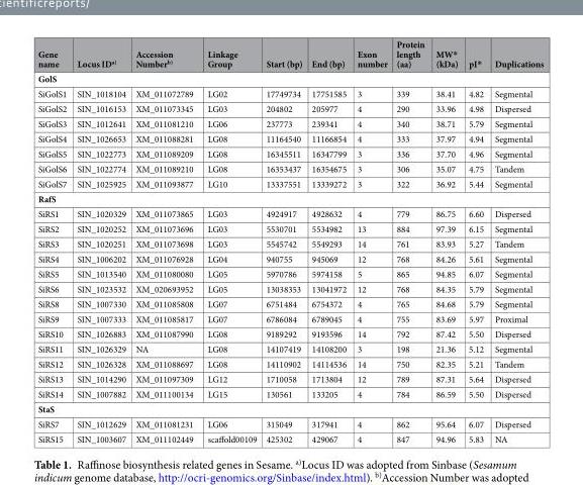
<table><thead><tr><td>Gene name</td><td>Locus ID<sup>a)</sup></td><td>Accession Number<sup>b)</sup></td><td>Linkage Group</td><td>Start (bp)</td><td>End (bp)</td><td>Exon number</td><td>Protein length (aa)</td><td>MW* (kDa)</td><td>pI*</td><td>Duplications</td></tr></thead><tbody><tr><td colspan="11">GolS</td></tr><tr><td>SiGolS1</td><td>SIN_1018104</td><td>XM_011072789</td><td>LG02</td><td>17749734</td><td>17751585</td><td>3</td><td>339</td><td>38.41</td><td>4.82</td><td>Segmental</td></tr><tr><td>SiGolS2</td><td>SIN_1016153</td><td>XM_011073345</td><td>LG03</td><td>204802</td><td>205977</td><td>4</td><td>290</td><td>33.96</td><td>4.98</td><td>Dispersed</td></tr><tr><td>SiGolS3</td><td>SIN_1012641</td><td>XM_011081210</td><td>LG06</td><td>237773</td><td>239341</td><td>4</td><td>340</td><td>38.71</td><td>5.79</td><td>Segmental</td></tr><tr><td>SiGolS4</td><td>SIN_1026653</td><td>XM_011088281</td><td>LG08</td><td>11164540</td><td>11166854</td><td>4</td><td>333</td><td>37.97</td><td>4.94</td><td>Segmental</td></tr><tr><td>SiGolS5</td><td>SIN_1022773</td><td>XM_011089209</td><td>LG08</td><td>16345511</td><td>16347799</td><td>3</td><td>336</td><td>37.70</td><td>4.96</td><td>Segmental</td></tr><tr><td>SiGolS6</td><td>SIN_1022774</td><td>XM_011089210</td><td>LG08</td><td>16353437</td><td>16354675</td><td>3</td><td>306</td><td>35.07</td><td>4.75</td><td>Tandem</td></tr><tr><td>SiGolS7</td><td>SIN_1025925</td><td>XM_011093877</td><td>LG10</td><td>13337551</td><td>13339272</td><td>3</td><td>322</td><td>36.92</td><td>5.44</td><td>Segmental</td></tr><tr><td colspan="11">RafS</td></tr><tr><td>SiRS1</td><td>SIN_1020329</td><td>XM_011073865</td><td>LG03</td><td>4924917</td><td>4928632</td><td>4</td><td>779</td><td>86.75</td><td>6.60</td><td>Dispersed</td></tr><tr><td>SiRS2</td><td>SIN_1020252</td><td>XM_011073696</td><td>LG03</td><td>5530701</td><td>5534982</td><td>13</td><td>884</td><td>97.39</td><td>6.15</td><td>Segmental</td></tr><tr><td>SiRS3</td><td>SIN_1020251</td><td>XM_011073698</td><td>LG03</td><td>5545742</td><td>5549293</td><td>14</td><td>761</td><td>83.93</td><td>5.27</td><td>Tandem</td></tr><tr><td>SiRS4</td><td>SIN_1006202</td><td>XM_011076928</td><td>LG04</td><td>940755</td><td>945069</td><td>12</td><td>768</td><td>84.26</td><td>5.61</td><td>Segmental</td></tr><tr><td>SiRS5</td><td>SIN_1013540</td><td>XM_011080080</td><td>LG05</td><td>5970786</td><td>5974158</td><td>5</td><td>865</td><td>94.85</td><td>6.07</td><td>Segmental</td></tr><tr><td>SiRS6</td><td>SIN_1023532</td><td>XM_020693952</td><td>LG05</td><td>13038353</td><td>13041972</td><td>12</td><td>768</td><td>84.35</td><td>5.79</td><td>Segmental</td></tr><tr><td>SiRS8</td><td>SIN_1007330</td><td>XM_011085808</td><td>LG07</td><td>6751484</td><td>6754372</td><td>4</td><td>765</td><td>84.68</td><td>5.79</td><td>Segmental</td></tr><tr><td>SiRS9</td><td>SIN_1007333</td><td>XM_011085817</td><td>LG07</td><td>6786084</td><td>6789045</td><td>4</td><td>755</td><td>83.69</td><td>5.97</td><td>Proximal</td></tr><tr><td>SiRS10</td><td>SIN_1026883</td><td>XM_011087990</td><td>LG08</td><td>9189292</td><td>9193596</td><td>14</td><td>792</td><td>87.42</td><td>5.50</td><td>Dispersed</td></tr><tr><td>SiRS11</td><td>SIN_1026329</td><td>NA</td><td>LG08</td><td>14107419</td><td>14108200</td><td>3</td><td>198</td><td>21.36</td><td>5.12</td><td>Segmental</td></tr><tr><td>SiRS12</td><td>SIN_1026328</td><td>XM_011088697</td><td>LG08</td><td>14110902</td><td>14114536</td><td>14</td><td>750</td><td>82.35</td><td>5.21</td><td>Tandem</td></tr><tr><td>SiRS13</td><td>SIN_1014290</td><td>XM_011097309</td><td>LG12</td><td>1710058</td><td>1713804</td><td>12</td><td>789</td><td>87.31</td><td>5.64</td><td>Dispersed</td></tr><tr><td>SiRS14</td><td>SIN_1007882</td><td>XM_011100134</td><td>LG15</td><td>130561</td><td>133205</td><td>4</td><td>784</td><td>86.59</td><td>5.50</td><td>Dispersed</td></tr><tr><td colspan="11">StaS</td></tr><tr><td>SiRS7</td><td>SIN_1012629</td><td>XM_011081231</td><td>LG06</td><td>315049</td><td>317941</td><td>4</td><td>862</td><td>95.64</td><td>6.07</td><td>Dispersed</td></tr><tr><td>SiRS15</td><td>SIN_1003607</td><td>XM_011102449</td><td>scaffold00109</td><td>425302</td><td>429067</td><td>4</td><td>847</td><td>94.96</td><td>5.83</td><td>NA</td></tr></tbody></table>